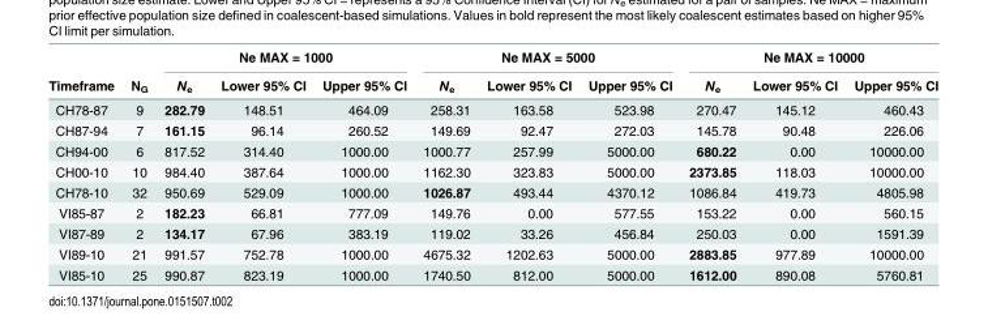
<table><thead><tr><td rowspan="2">Timeframe</td><td rowspan="2">N<sub>G</sub></td><td colspan="3">Ne MAX = 1000</td><td colspan="3">Ne MAX = 5000</td><td colspan="3">Ne MAX = 10000</td></tr><tr><td>N<sub>e</sub></td><td>Lower 95% CI</td><td>Upper 95% CI</td><td>N<sub>e</sub></td><td>Lower 95% CI</td><td>Upper 95% CI</td><td>N<sub>e</sub></td><td>Lower 95% CI</td><td>Upper 95% CI</td></tr></thead><tbody><tr><td>CH78-87</td><td>9</td><td>282.79</td><td>148.51</td><td>464.09</td><td>258.31</td><td>163.58</td><td>523.98</td><td>270.47</td><td>145.12</td><td>460.43</td></tr><tr><td>CH87-94</td><td>7</td><td>161.15</td><td>96.14</td><td>260.52</td><td>149.69</td><td>92.47</td><td>272.03</td><td>145.78</td><td>90.48</td><td>226.06</td></tr><tr><td>CH94-00</td><td>6</td><td>817.52</td><td>314.40</td><td>1000.00</td><td>1000.77</td><td>257.99</td><td>5000.00</td><td>680.22</td><td>0.00</td><td>10000.00</td></tr><tr><td>CH00-10</td><td>10</td><td>984.40</td><td>387.64</td><td>1000.00</td><td>1162.30</td><td>323.83</td><td>5000.00</td><td>2373.85</td><td>118.03</td><td>10000.00</td></tr><tr><td>CH78-10</td><td>32</td><td>950.69</td><td>529.09</td><td>1000.00</td><td>1026.87</td><td>493.44</td><td>4370.12</td><td>1086.84</td><td>419.73</td><td>4805.98</td></tr><tr><td>VI85-87</td><td>2</td><td>182.23</td><td>66.81</td><td>777.09</td><td>149.76</td><td>0.00</td><td>577.55</td><td>153.22</td><td>0.00</td><td>560.15</td></tr><tr><td>VI87-89</td><td>2</td><td>134.17</td><td>67.96</td><td>383.19</td><td>119.02</td><td>33.26</td><td>456.84</td><td>250.03</td><td>0.00</td><td>1591.39</td></tr><tr><td>VI89-10</td><td>21</td><td>991.57</td><td>752.78</td><td>1000.00</td><td>4675.32</td><td>1202.63</td><td>5000.00</td><td>2883.85</td><td>977.89</td><td>10000.00</td></tr><tr><td>VI85-10</td><td>25</td><td>990.87</td><td>823.19</td><td>1000.00</td><td>1740.50</td><td>812.00</td><td>5000.00</td><td>1612.00</td><td>890.08</td><td>5760.81</td></tr></tbody></table>